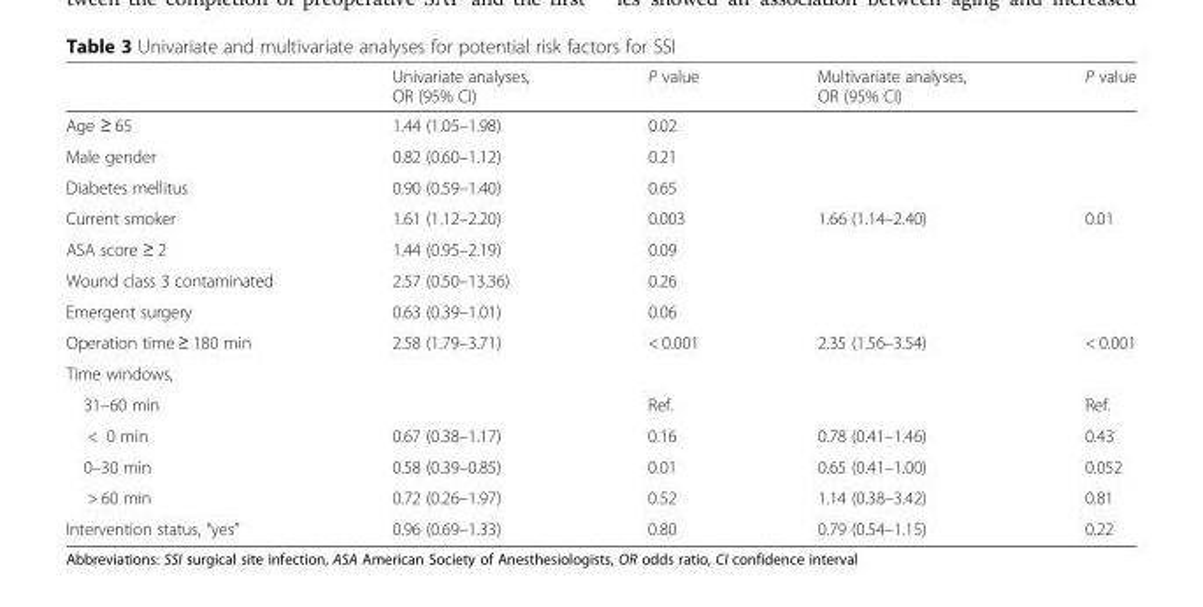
<table><thead><tr><td></td><td>Univariate analyses, OR (95% CI)</td><td>P value</td><td>Multivariate analyses, OR (95% CI)</td><td>P value</td></tr></thead><tbody><tr><td>Age ≥ 65</td><td>1.44 (1.05–1.98)</td><td>0.02</td><td></td><td></td></tr><tr><td>Male gender</td><td>0.82 (0.60–1.12)</td><td>0.21</td><td></td><td></td></tr><tr><td>Diabetes mellitus</td><td>0.90 (0.59–1.40)</td><td>0.65</td><td></td><td></td></tr><tr><td>Current smoker</td><td>1.61 (1.12–2.20)</td><td>0.003</td><td>1.66 (1.14–2.40)</td><td>0.01</td></tr><tr><td>ASA score ≥ 2</td><td>1.44 (0.95–2.19)</td><td>0.09</td><td></td><td></td></tr><tr><td>Wound class 3 contaminated</td><td>2.57 (0.50–13.36)</td><td>0.26</td><td></td><td></td></tr><tr><td>Emergent surgery</td><td>0.63 (0.39–1.01)</td><td>0.06</td><td></td><td></td></tr><tr><td>Operation time ≥ 180 min</td><td>2.58 (1.79–3.71)</td><td>&lt; 0.001</td><td>2.35 (1.56–3.54)</td><td>&lt; 0.001</td></tr><tr><td colspan="5">Time windows,</td></tr><tr><td>31–60 min</td><td></td><td>Ref.</td><td></td><td>Ref.</td></tr><tr><td>&lt; 0 min</td><td>0.67 (0.38–1.17)</td><td>0.16</td><td>0.78 (0.41–1.46)</td><td>0.43</td></tr><tr><td>0–30 min</td><td>0.58 (0.39–0.85)</td><td>0.01</td><td>0.65 (0.41–1.00)</td><td>0.052</td></tr><tr><td>&gt; 60 min</td><td>0.72 (0.26–1.97)</td><td>0.52</td><td>1.14 (0.38–3.42)</td><td>0.81</td></tr><tr><td>Intervention status, “yes”</td><td>0.96 (0.69–1.33)</td><td>0.80</td><td>0.79 (0.54–1.15)</td><td>0.22</td></tr></tbody></table>